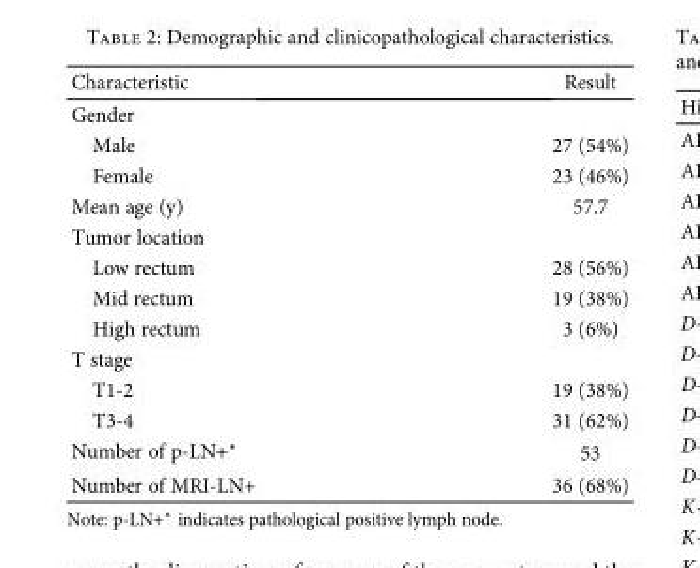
<table><thead><tr><td>Characteristic</td><td>Result</td></tr></thead><tbody><tr><td colspan="2">Gender</td></tr><tr><td>Male</td><td>27 (54%)</td></tr><tr><td>Female</td><td>23 (46%)</td></tr><tr><td>Mean age (y)</td><td>57.7</td></tr><tr><td colspan="2">Tumor location</td></tr><tr><td>Low rectum</td><td>28 (56%)</td></tr><tr><td>Mid rectum</td><td>19 (38%)</td></tr><tr><td>High rectum</td><td>3 (6%)</td></tr><tr><td colspan="2">T stage</td></tr><tr><td>T1-2</td><td>19 (38%)</td></tr><tr><td>T3-4</td><td>31 (62%)</td></tr><tr><td>Number of p-LN+∗</td><td>53</td></tr><tr><td>Number of MRI-LN+</td><td>36 (68%)</td></tr></tbody></table>